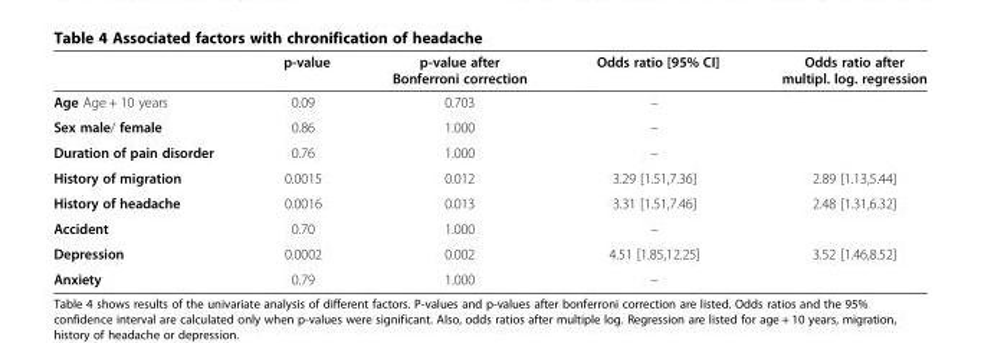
<table><thead><tr><td></td><td>p-value</td><td>p-value after Bonferroni correction</td><td>Odds ratio [95% CI]</td><td>Odds ratio after multipl. log. regression</td></tr></thead><tbody><tr><td>Age Age + 10 years</td><td>0.09</td><td>0.703</td><td>–</td><td></td></tr><tr><td>Sex male/ female</td><td>0.86</td><td>1.000</td><td>–</td><td></td></tr><tr><td>Duration of pain disorder</td><td>0.76</td><td>1.000</td><td>–</td><td></td></tr><tr><td>History of migration</td><td>0.0015</td><td>0.012</td><td>3.29 [1.51,7.36]</td><td>2.89 [1.13,5.44]</td></tr><tr><td>History of headache</td><td>0.0016</td><td>0.013</td><td>3.31 [1.51,7.46]</td><td>2.48 [1.31,6.32]</td></tr><tr><td>Accident</td><td>0.70</td><td>1.000</td><td>–</td><td></td></tr><tr><td>Depression</td><td>0.0002</td><td>0.002</td><td>4.51 [1.85,12.25]</td><td>3.52 [1.46,8.52]</td></tr><tr><td>Anxiety</td><td>0.79</td><td>1.000</td><td>–</td><td></td></tr></tbody></table>